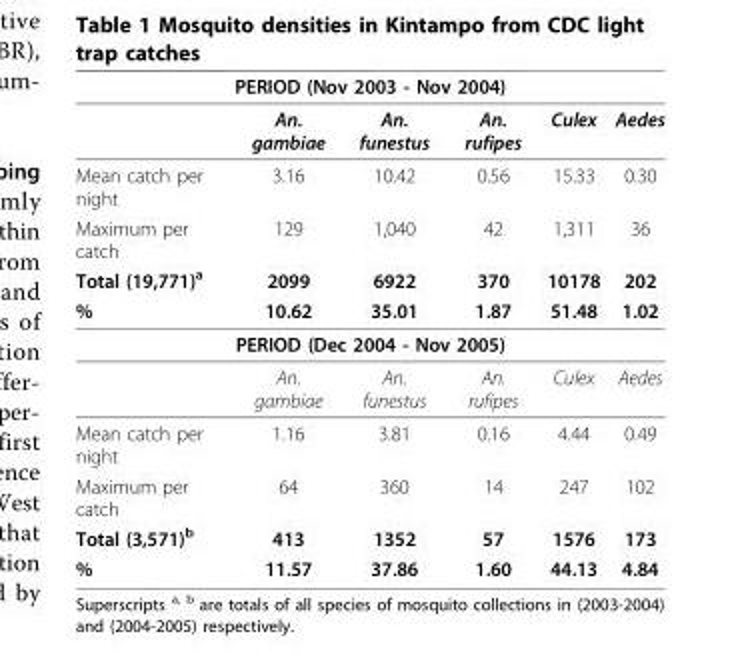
<table><thead><tr><td colspan="6">PERIOD (Nov 2003 - Nov 2004)</td></tr><tr><td></td><td>An. gambiae</td><td>An. funestus</td><td>An. rufipes</td><td>Culex</td><td>Aedes</td></tr></thead><tbody><tr><td>Mean catch per night</td><td>3.16</td><td>10.42</td><td>0.56</td><td>15.33</td><td>0.30</td></tr><tr><td>Maximum per catch</td><td>129</td><td>1,040</td><td>42</td><td>1,311</td><td>36</td></tr><tr><td>Total (19,771)<sup>a</sup></td><td>2099</td><td>6922</td><td>370</td><td>10178</td><td>202</td></tr><tr><td>%</td><td>10.62</td><td>35.01</td><td>1.87</td><td>51.48</td><td>1.02</td></tr><tr><td colspan="6">PERIOD (Dec 2004 - Nov 2005)</td></tr><tr><td></td><td>An. gambiae</td><td>An. funestus</td><td>An. rufipes</td><td>Culex</td><td>Aedes</td></tr><tr><td>Mean catch per night</td><td>1.16</td><td>3.81</td><td>0.16</td><td>4.44</td><td>0.49</td></tr><tr><td>Maximum per catch</td><td>64</td><td>360</td><td>14</td><td>247</td><td>102</td></tr><tr><td>Total (3,571)<sup>b</sup></td><td>413</td><td>1352</td><td>57</td><td>1576</td><td>173</td></tr><tr><td>%</td><td>11.57</td><td>37.86</td><td>1.60</td><td>44.13</td><td>4.84</td></tr></tbody></table>